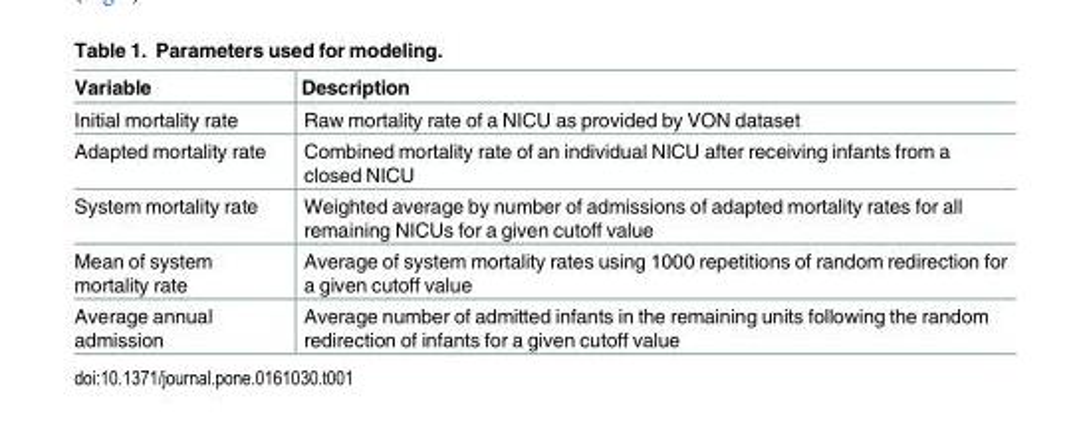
<table><thead><tr><td>Variable</td><td>Description</td></tr></thead><tbody><tr><td>Initial mortality rate</td><td>Raw mortality rate of a NICU as provided by VON dataset</td></tr><tr><td>Adapted mortality rate</td><td>Combined mortality rate of an individual NICU after receiving infants from a closed NICU</td></tr><tr><td>System mortality rate</td><td>Weighted average by number of admissions of adapted mortality rates for all remaining NICUs for a given cutoff value</td></tr><tr><td>Mean of system mortality rate</td><td>Average of system mortality rates using 1000 repetitions of random redirection for a given cutoff value</td></tr><tr><td>Average annual admission</td><td>Average number of admitted infants in the remaining units following the random redirection of infants for a given cutoff value</td></tr></tbody></table>